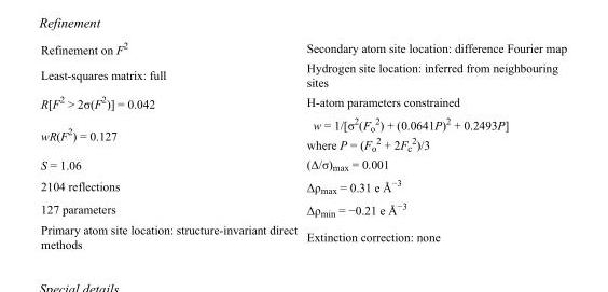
<table><tbody><tr><td>Refinement on F<sup>2</sup></td><td>Secondary atom site location: difference Fourier map</td></tr><tr><td>Least-squares matrix: full</td><td>Hydrogen site location: inferred from neighbouring sites</td></tr><tr><td>R[F<sup>2</sup> &gt; 2σ(F<sup>2</sup>)] = 0.042</td><td>H-atom parameters constrained</td></tr><tr><td>wR(F<sup>2</sup>) = 0.127</td><td>w = 1/[σ<sup>2</sup>(F<sub>o</sub> <sup>2</sup>) + (0.0641P)<sup>2</sup> + 0.2493P] where P = (F<sub>o</sub> <sup>2</sup> + 2F<sub>c</sub> <sup>2</sup>)/3</td></tr><tr><td>S = 1.06</td><td>(Δ/σ)<sub>max</sub> = 0.001</td></tr><tr><td>2104 reflections</td><td>Δρ<sub>max</sub> = 0.31 e Å<sup>−3</sup></td></tr><tr><td>127 parameters</td><td>Δρ<sub>min</sub> = −0.21 e Å<sup>−3</sup></td></tr><tr><td>Primary atom site location: structure-invariant direct methods</td><td>Extinction correction: none</td></tr></tbody></table>